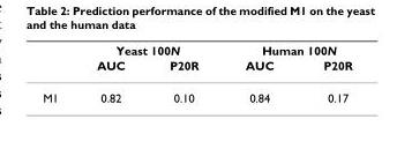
<table><thead><tr><td rowspan="2"></td><td colspan="2">Yeast 100N</td><td colspan="2">Human 100N</td></tr><tr><td>AUC</td><td>P20R</td><td>AUC</td><td>P20R</td></tr></thead><tbody><tr><td>M1</td><td>0.82</td><td>0.10</td><td>0.84</td><td>0.17</td></tr></tbody></table>